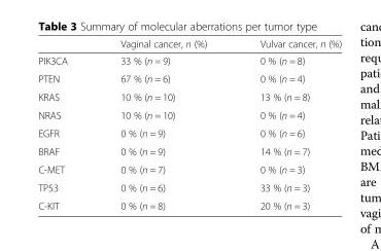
<table><thead><tr><td></td><td>Vaginal cancer, n (%)</td><td>Vulvar cancer, n (%)</td></tr></thead><tbody><tr><td>PIK3CA</td><td>33 % (n = 9)</td><td>0 % (n = 8)</td></tr><tr><td>PTEN</td><td>67 % (n = 6)</td><td>0 % (n = 4)</td></tr><tr><td>KRAS</td><td>10 % (n = 10)</td><td>13 % (n = 8)</td></tr><tr><td>NRAS</td><td>10 % (n = 10)</td><td>0 % (n = 4)</td></tr><tr><td>EGFR</td><td>0 % (n = 9)</td><td>0 % (n = 6)</td></tr><tr><td>BRAF</td><td>0 % (n = 9)</td><td>14 % (n = 7)</td></tr><tr><td>C-MET</td><td>0 % (n = 7)</td><td>0 % (n = 3)</td></tr><tr><td>TP53</td><td>0 % (n = 6)</td><td>33 % (n = 3)</td></tr><tr><td>C-KIT</td><td>0 % (n = 8)</td><td>20 % (n = 3)</td></tr></tbody></table>